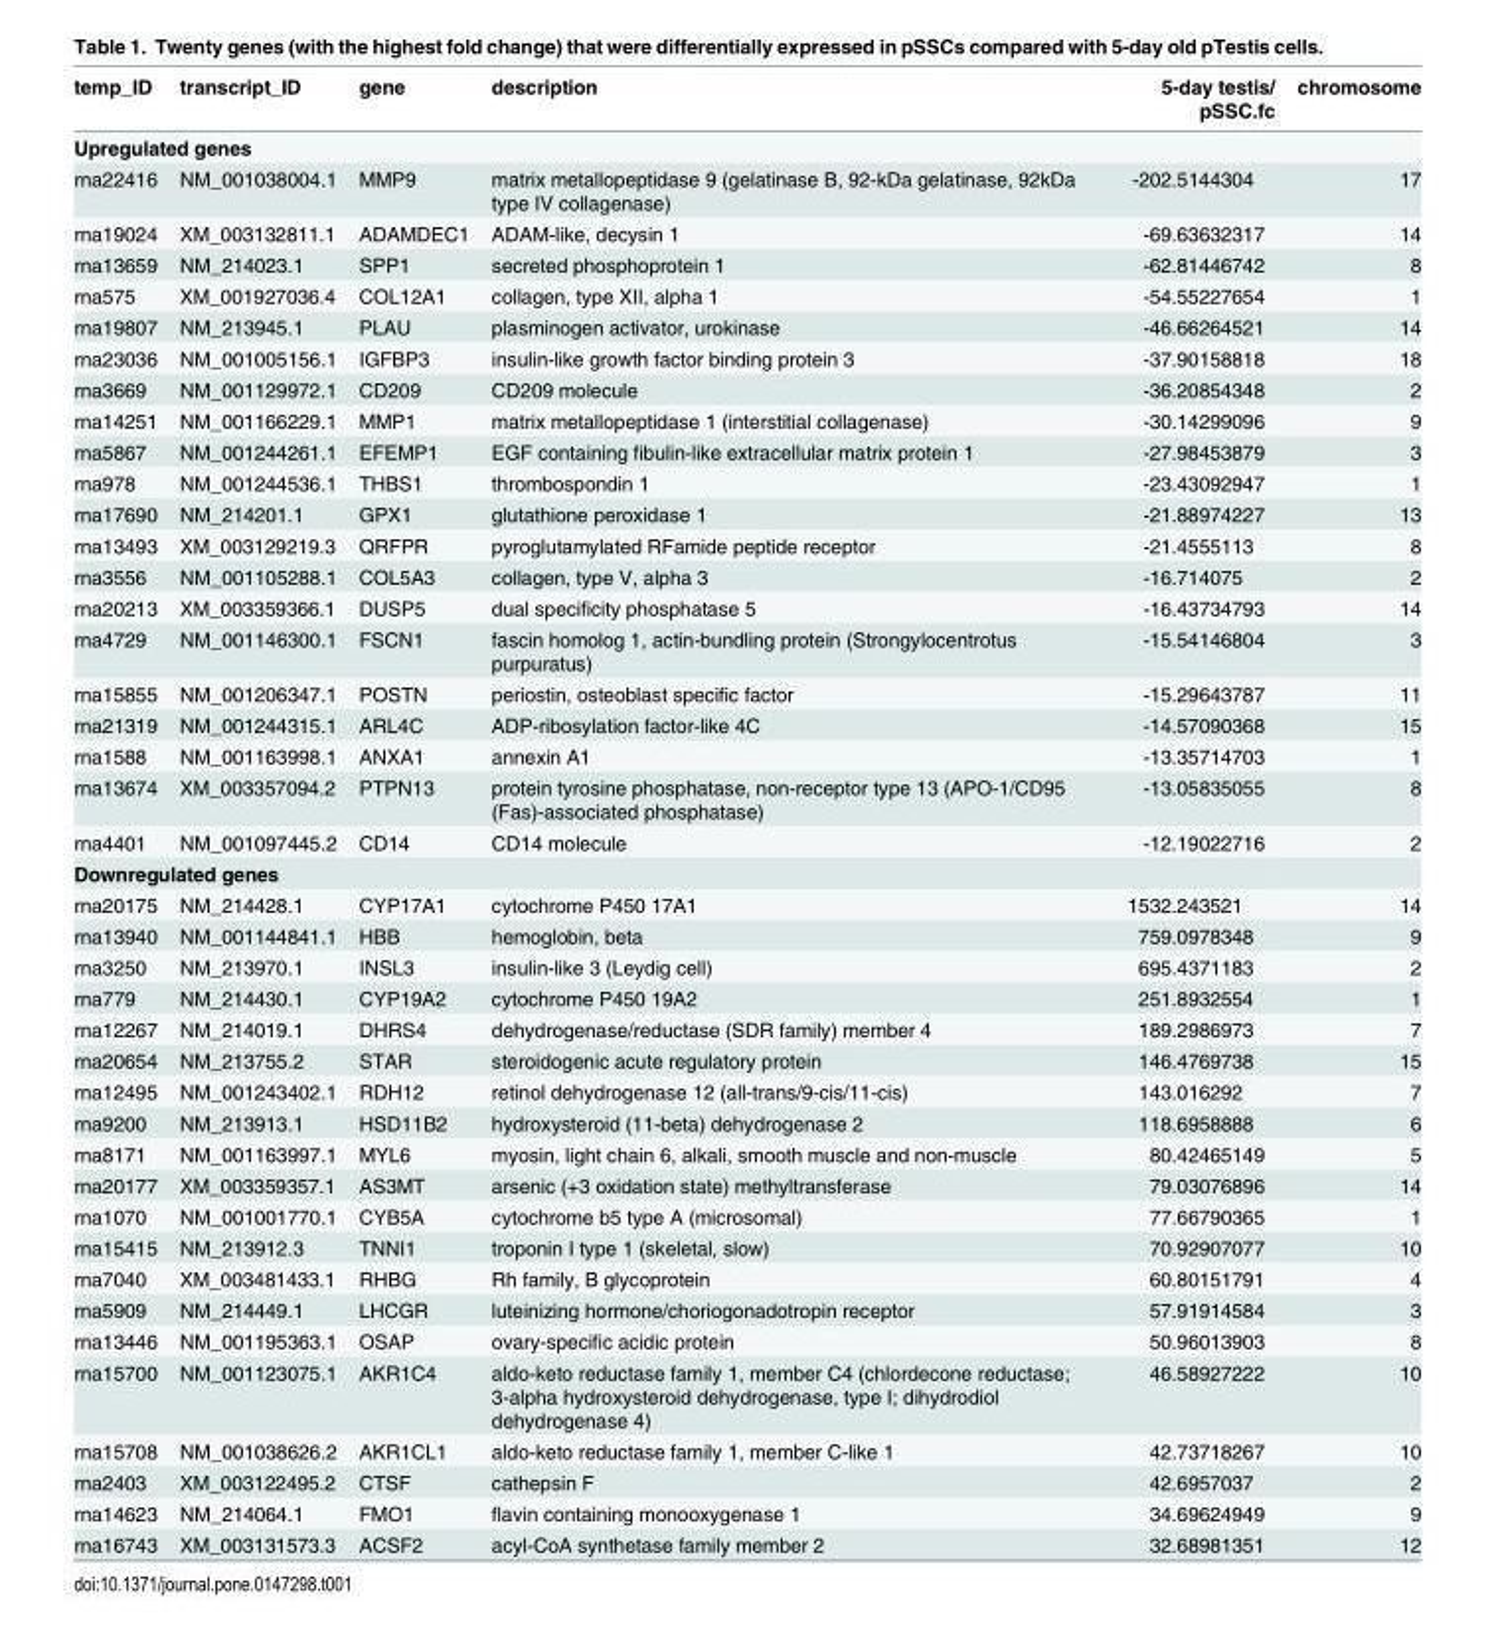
<table><thead><tr><td>temp_ID</td><td>transcript_ID</td><td>gene</td><td>description</td><td>5-day testis/ pSSC.fc</td><td>chromosome</td></tr></thead><tbody><tr><td colspan="6">Upregulated genes</td></tr><tr><td>rna22416</td><td>NM_001038004.1</td><td>MMP9</td><td>matrix metallopeptidase 9 (gelatinase B, 92-kDa gelatinase, 92kDa type IV collagenase)</td><td>-202.5144304</td><td>17</td></tr><tr><td>rna19024</td><td>XM_003132811.1</td><td>ADAMDEC1</td><td>ADAM-like, decysin 1</td><td>-69.63632317</td><td>14</td></tr><tr><td>rna13659</td><td>NM_214023.1</td><td>SPP1</td><td>secreted phosphoprotein 1</td><td>-62.81446742</td><td>8</td></tr><tr><td>rna575</td><td>XM_001927036.4</td><td>COL12A1</td><td>collagen, type XII, alpha 1</td><td>-54.55227654</td><td>1</td></tr><tr><td>rna19807</td><td>NM_213945.1</td><td>PLAU</td><td>plasminogen activator, urokinase</td><td>-46.66264521</td><td>14</td></tr><tr><td>rna23036</td><td>NM_001005156.1</td><td>IGFBP3</td><td>insulin-like growth factor binding protein 3</td><td>-37.90158818</td><td>18</td></tr><tr><td>rna3669</td><td>NM_001129972.1</td><td>CD209</td><td>CD209 molecule</td><td>-36.20854348</td><td>2</td></tr><tr><td>rna14251</td><td>NM_001166229.1</td><td>MMP1</td><td>matrix metallopeptidase 1 (interstitial collagenase)</td><td>-30.14299096</td><td>9</td></tr><tr><td>rna5867</td><td>NM_001244261.1</td><td>EFEMP1</td><td>EGF containing fibulin-like extracellular matrix protein 1</td><td>-27.98453879</td><td>3</td></tr><tr><td>rna978</td><td>NM_001244536.1</td><td>THBS1</td><td>thrombospondin 1</td><td>-23.43092947</td><td>1</td></tr><tr><td>rna17690</td><td>NM_214201.1</td><td>GPX1</td><td>glutathione peroxidase 1</td><td>-21.88974227</td><td>13</td></tr><tr><td>rna13493</td><td>XM_003129219.3</td><td>QRFPR</td><td>pyroglutamylated RFamide peptide receptor</td><td>-21.4555113</td><td>8</td></tr><tr><td>rna3556</td><td>NM_001105288.1</td><td>COL5A3</td><td>collagen, type V, alpha 3</td><td>-16.714075</td><td>2</td></tr><tr><td>rna20213</td><td>XM_003359366.1</td><td>DUSP5</td><td>dual specificity phosphatase 5</td><td>-16.43734793</td><td>14</td></tr><tr><td>rna4729</td><td>NM_001146300.1</td><td>FSCN1</td><td>fascin homolog 1, actin-bundling protein (Strongylocentrotus purpuratus)</td><td>-15.54146804</td><td>3</td></tr><tr><td>rna15855</td><td>NM_001206347.1</td><td>POSTN</td><td>periostin, osteoblast specific factor</td><td>-15.29643787</td><td>11</td></tr><tr><td>rna21319</td><td>NM_001244315.1</td><td>ARL4C</td><td>ADP-ribosylation factor-like 4C</td><td>-14.57090368</td><td>15</td></tr><tr><td>rna1588</td><td>NM_001163998.1</td><td>ANXA1</td><td>annexin A1</td><td>-13.35714703</td><td>1</td></tr><tr><td>rna13674</td><td>XM_003357094.2</td><td>PTPN13</td><td>protein tyrosine phosphatase, non-receptor type 13 (APO-1/CD95 (Fas)-associated phosphatase)</td><td>-13.05835055</td><td>8</td></tr><tr><td>rna4401</td><td>NM_001097445.2</td><td>CD14</td><td>CD14 molecule</td><td>-12.19022716</td><td>2</td></tr><tr><td colspan="6">Downregulated genes</td></tr><tr><td>rna20175</td><td>NM_214428.1</td><td>CYP17A1</td><td>cytochrome P450 17A1</td><td>1532.243521</td><td>14</td></tr><tr><td>rna13940</td><td>NM_001144841.1</td><td>HBB</td><td>hemoglobin, beta</td><td>759.0978348</td><td>9</td></tr><tr><td>rna3250</td><td>NM_213970.1</td><td>INSL3</td><td>insulin-like 3 (Leydig cell)</td><td>695.4371183</td><td>2</td></tr><tr><td>rna779</td><td>NM_214430.1</td><td>CYP19A2</td><td>cytochrome P450 19A2</td><td>251.8932554</td><td>1</td></tr><tr><td>rna12267</td><td>NM_214019.1</td><td>DHRS4</td><td>dehydrogenase/reductase (SDR family) member 4</td><td>189.2986973</td><td>7</td></tr><tr><td>rna20654</td><td>NM_213755.2</td><td>STAR</td><td>steroidogenic acute regulatory protein</td><td>146.4769738</td><td>15</td></tr><tr><td>rna12495</td><td>NM_001243402.1</td><td>RDH12</td><td>retinol dehydrogenase 12 (all-trans/9-cis/11-cis)</td><td>143.016292</td><td>7</td></tr><tr><td>rna9200</td><td>NM_213913.1</td><td>HSD11B2</td><td>hydroxysteroid (11-beta) dehydrogenase 2</td><td>118.6958888</td><td>6</td></tr><tr><td>rna8171</td><td>NM_001163997.1</td><td>MYL6</td><td>myosin, light chain 6, alkali, smooth muscle and non-muscle</td><td>80.42465149</td><td>5</td></tr><tr><td>rna20177</td><td>XM_003359357.1</td><td>AS3MT</td><td>arsenic (+3 oxidation state) methyltransferase</td><td>79.03076896</td><td>14</td></tr><tr><td>rna1070</td><td>NM_001001770.1</td><td>CYB5A</td><td>cytochrome b5 type A (microsomal)</td><td>77.66790365</td><td>1</td></tr><tr><td>rna15415</td><td>NM_213912.3</td><td>TNNI1</td><td>troponin I type 1 (skeletal, slow)</td><td>70.92907077</td><td>10</td></tr><tr><td>rna7040</td><td>XM_003481433.1</td><td>RHBG</td><td>Rh family, B glycoprotein</td><td>60.80151791</td><td>4</td></tr><tr><td>rna5909</td><td>NM_214449.1</td><td>LHCGR</td><td>luteinizing hormone/choriogonadotropin receptor</td><td>57.91914584</td><td>3</td></tr><tr><td>rna13446</td><td>NM_001195363.1</td><td>OSAP</td><td>ovary-specific acidic protein</td><td>50.96013903</td><td>8</td></tr><tr><td>rna15700</td><td>NM_001123075.1</td><td>AKR1C4</td><td>aldo-keto reductase family 1, member C4 (chlordecone reductase; 3-alpha hydroxysteroid dehydrogenase, type I; dihydrodiol dehydrogenase 4)</td><td>46.58927222</td><td>10</td></tr><tr><td>rna15708</td><td>NM_001038626.2</td><td>AKR1CL1</td><td>aldo-keto reductase family 1, member C-like 1</td><td>42.73718267</td><td>10</td></tr><tr><td>rna2403</td><td>XM_003122495.2</td><td>CTSF</td><td>cathepsin F</td><td>42.6957037</td><td>2</td></tr><tr><td>rna14623</td><td>NM_214064.1</td><td>FMO1</td><td>flavin containing monooxygenase 1</td><td>34.69624949</td><td>9</td></tr><tr><td>rna16743</td><td>XM_003131573.3</td><td>ACSF2</td><td>acyl-CoA synthetase family member 2</td><td>32.68981351</td><td>12</td></tr></tbody></table>